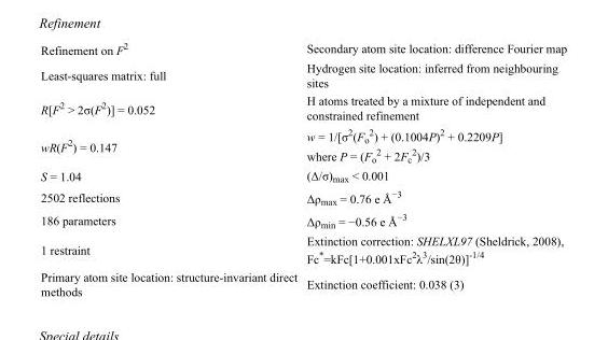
<table><tbody><tr><td>Refinement on F<sup>2</sup></td><td>Secondary atom site location: difference Fourier map</td></tr><tr><td>Least-squares matrix: full</td><td>Hydrogen site location: inferred from neighbouring sites</td></tr><tr><td>R[F<sup>2</sup> &gt; 2σ(F<sup>2</sup>)] = 0.052</td><td>H atoms treated by a mixture of independent and constrained refinement</td></tr><tr><td>wR(F<sup>2</sup>) = 0.147</td><td>w = 1/[σ<sup>2</sup>(F<sub>o</sub> <sup>2</sup>) + (0.1004P)<sup>2</sup> + 0.2209P] where P = (F<sub>o</sub> <sup>2</sup> + 2F<sub>c</sub> <sup>2</sup>)/3</td></tr><tr><td>S = 1.04</td><td>(Δ/σ)<sub>max</sub> &lt; 0.001</td></tr><tr><td>2502 reflections</td><td>Δρ<sub>max</sub> = 0.76 e Å<sup>−3</sup></td></tr><tr><td>186 parameters</td><td>Δρ<sub>min</sub> = −0.56 e Å<sup>−3</sup></td></tr><tr><td>1 restraint</td><td>Extinction correction: SHELXL97 (Sheldrick, 2008), Fc*=kFc[1+0.001xFc<sup>2</sup>λ<sup>3</sup>/sin(2θ)]<sup>-1/4</sup></td></tr><tr><td>Primary atom site location: structure-invariant direct methods</td><td>Extinction coefficient: 0.038 (3)</td></tr></tbody></table>